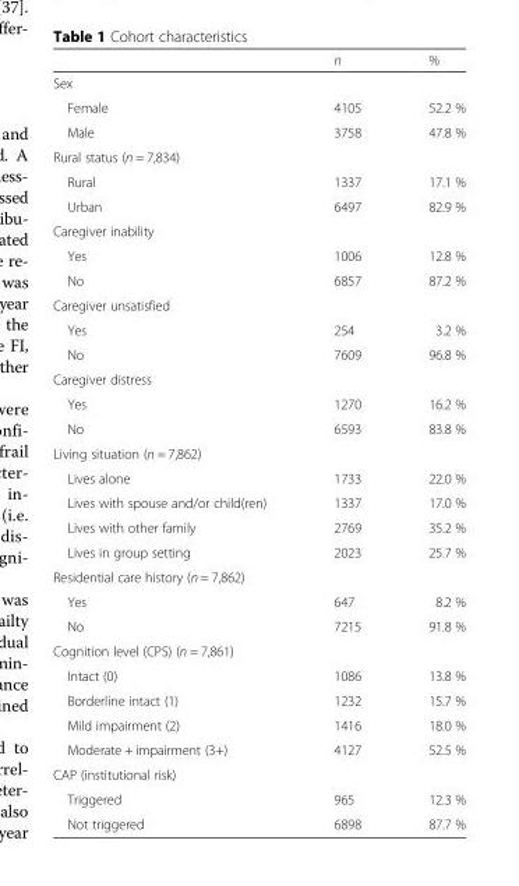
<table><thead><tr><td></td><td>n</td><td>%</td></tr></thead><tbody><tr><td colspan="3">Sex</td></tr><tr><td>Female</td><td>4105</td><td>52.2 %</td></tr><tr><td>Male</td><td>3758</td><td>47.8 %</td></tr><tr><td colspan="3">Rural status (n = 7,834)</td></tr><tr><td>Rural</td><td>1337</td><td>17.1 %</td></tr><tr><td>Urban</td><td>6497</td><td>82.9 %</td></tr><tr><td colspan="3">Caregiver inability</td></tr><tr><td>Yes</td><td>1006</td><td>12.8 %</td></tr><tr><td>No</td><td>6857</td><td>87.2 %</td></tr><tr><td colspan="3">Caregiver unsatisfied</td></tr><tr><td>Yes</td><td>254</td><td>3.2 %</td></tr><tr><td>No</td><td>7609</td><td>96.8 %</td></tr><tr><td colspan="3">Caregiver distress</td></tr><tr><td>Yes</td><td>1270</td><td>16.2 %</td></tr><tr><td>No</td><td>6593</td><td>83.8 %</td></tr><tr><td colspan="3">Living situation (n = 7,862)</td></tr><tr><td>Lives alone</td><td>1733</td><td>22.0 %</td></tr><tr><td>Lives with spouse and/or child(ren)</td><td>1337</td><td>17.0 %</td></tr><tr><td>Lives with other family</td><td>2769</td><td>35.2 %</td></tr><tr><td>Lives in group setting</td><td>2023</td><td>25.7 %</td></tr><tr><td colspan="3">Residential care history (n = 7,862)</td></tr><tr><td>Yes</td><td>647</td><td>8.2 %</td></tr><tr><td>No</td><td>7215</td><td>91.8 %</td></tr><tr><td colspan="3">Cognition level (CPS) (n = 7,861)</td></tr><tr><td>Intact (0)</td><td>1086</td><td>13.8 %</td></tr><tr><td>Borderline intact (1)</td><td>1232</td><td>15.7 %</td></tr><tr><td>Mild impairment (2)</td><td>1416</td><td>18.0 %</td></tr><tr><td>Moderate + impairment (3+)</td><td>4127</td><td>52.5 %</td></tr><tr><td colspan="3">CAP (institutional risk)</td></tr><tr><td>Triggered</td><td>965</td><td>12.3 %</td></tr><tr><td>Not triggered</td><td>6898</td><td>87.7 %</td></tr></tbody></table>